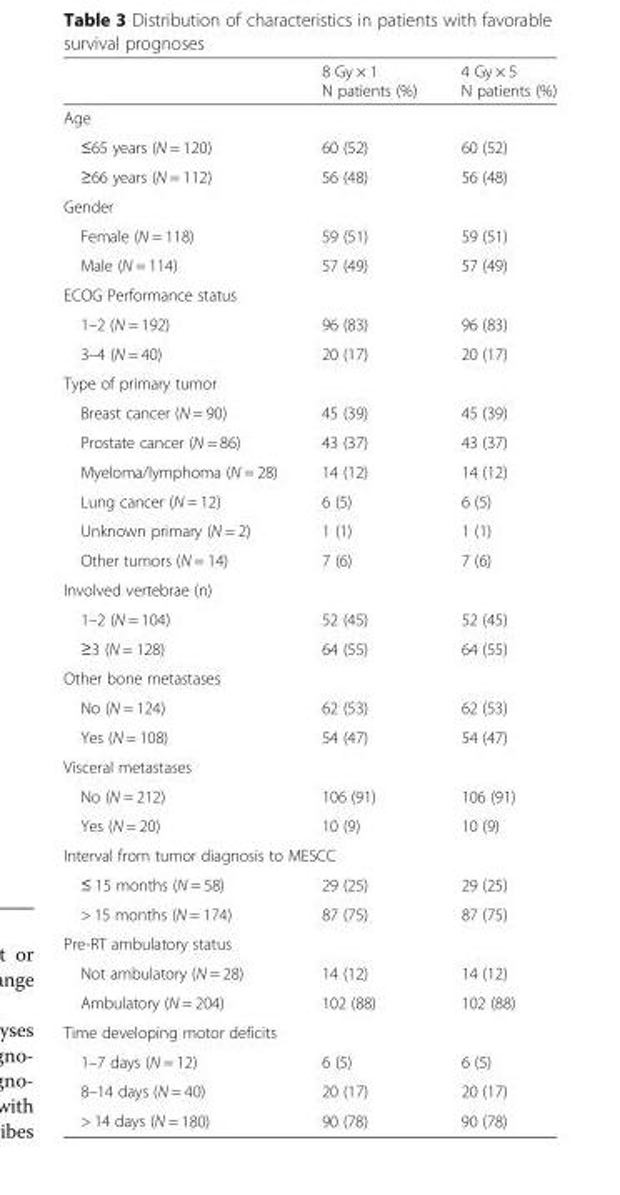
<table><thead><tr><td></td><td>8 Gy × 1 N patients (%)</td><td>4 Gy × 5 N patients (%)</td></tr></thead><tbody><tr><td colspan="3">Age</td></tr><tr><td>≤65 years (N = 120)</td><td>60 (52)</td><td>60 (52)</td></tr><tr><td>≥66 years (N = 112)</td><td>56 (48)</td><td>56 (48)</td></tr><tr><td colspan="3">Gender</td></tr><tr><td>Female (N = 118)</td><td>59 (51)</td><td>59 (51)</td></tr><tr><td>Male (N = 114)</td><td>57 (49)</td><td>57 (49)</td></tr><tr><td colspan="3">ECOG Performance status</td></tr><tr><td>1–2 (N = 192)</td><td>96 (83)</td><td>96 (83)</td></tr><tr><td>3–4 (N = 40)</td><td>20 (17)</td><td>20 (17)</td></tr><tr><td colspan="3">Type of primary tumor</td></tr><tr><td>Breast cancer (N = 90)</td><td>45 (39)</td><td>45 (39)</td></tr><tr><td>Prostate cancer (N = 86)</td><td>43 (37)</td><td>43 (37)</td></tr><tr><td>Myeloma/lymphoma (N = 28)</td><td>14 (12)</td><td>14 (12)</td></tr><tr><td>Lung cancer (N = 12)</td><td>6 (5)</td><td>6 (5)</td></tr><tr><td>Unknown primary (N = 2)</td><td>1 (1)</td><td>1 (1)</td></tr><tr><td>Other tumors (N = 14)</td><td>7 (6)</td><td>7 (6)</td></tr><tr><td colspan="3">Involved vertebrae (n)</td></tr><tr><td>1–2 (N = 104)</td><td>52 (45)</td><td>52 (45)</td></tr><tr><td>≥3 (N = 128)</td><td>64 (55)</td><td>64 (55)</td></tr><tr><td colspan="3">Other bone metastases</td></tr><tr><td>No (N = 124)</td><td>62 (53)</td><td>62 (53)</td></tr><tr><td>Yes (N = 108)</td><td>54 (47)</td><td>54 (47)</td></tr><tr><td colspan="3">Visceral metastases</td></tr><tr><td>No (N = 212)</td><td>106 (91)</td><td>106 (91)</td></tr><tr><td>Yes (N = 20)</td><td>10 (9)</td><td>10 (9)</td></tr><tr><td colspan="3">Interval from tumor diagnosis to MESCC</td></tr><tr><td>≤ 15 months (N = 58)</td><td>29 (25)</td><td>29 (25)</td></tr><tr><td>&gt; 15 months (N = 174)</td><td>87 (75)</td><td>87 (75)</td></tr><tr><td colspan="3">Pre-RT ambulatory status</td></tr><tr><td>Not ambulatory (N = 28)</td><td>14 (12)</td><td>14 (12)</td></tr><tr><td>Ambulatory (N = 204)</td><td>102 (88)</td><td>102 (88)</td></tr><tr><td colspan="3">Time developing motor deficits</td></tr><tr><td>1–7 days (N = 12)</td><td>6 (5)</td><td>6 (5)</td></tr><tr><td>8–14 days (N = 40)</td><td>20 (17)</td><td>20 (17)</td></tr><tr><td>&gt; 14 days (N = 180)</td><td>90 (78)</td><td>90 (78)</td></tr></tbody></table>